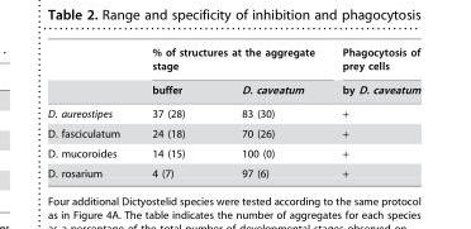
<table><thead><tr><td rowspan="2"></td><td colspan="2">% of structures at the aggregate stage</td><td rowspan="2">Phagocytosis of prey cells by D. caveatum</td></tr><tr><td>buffer</td><td>D. caveatum</td></tr></thead><tbody><tr><td>D. aureostipes</td><td>37 (28)</td><td>83 (30)</td><td>+</td></tr><tr><td>D. fasciculatum</td><td>24 (18)</td><td>70 (26)</td><td>+</td></tr><tr><td>D. mucoroides</td><td>14 (15)</td><td>100 (0)</td><td>+</td></tr><tr><td>D. rosarium</td><td>4 (7)</td><td>97 (6)</td><td>+</td></tr></tbody></table>